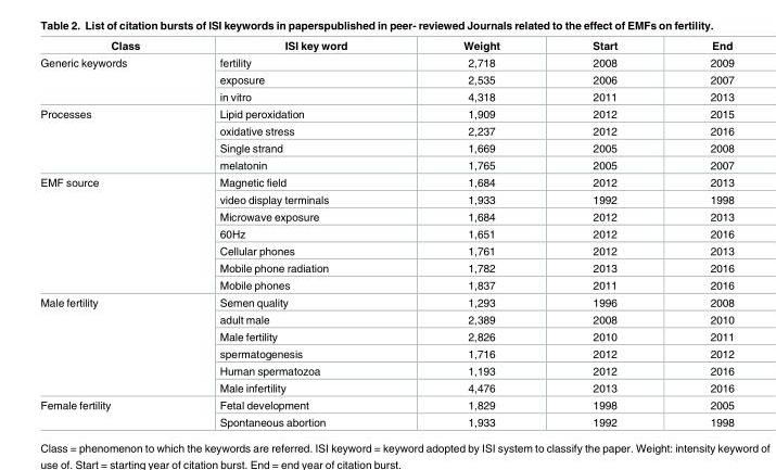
<table><thead><tr><td>Class</td><td>ISI key word</td><td>Weight</td><td>Start</td><td>End</td></tr></thead><tbody><tr><td rowspan="3">Generic keywords</td><td>fertility</td><td>2,718</td><td>2008</td><td>2009</td></tr><tr><td>exposure</td><td>2,535</td><td>2006</td><td>2007</td></tr><tr><td>in vitro</td><td>4,318</td><td>2011</td><td>2013</td></tr><tr><td rowspan="4">Processes</td><td>Lipid peroxidation</td><td>1,909</td><td>2012</td><td>2015</td></tr><tr><td>oxidative stress</td><td>2,237</td><td>2012</td><td>2016</td></tr><tr><td>Single strand</td><td>1,669</td><td>2005</td><td>2008</td></tr><tr><td>melatonin</td><td>1,765</td><td>2005</td><td>2007</td></tr><tr><td rowspan="7">EMF source</td><td>Magnetic field</td><td>1,684</td><td>2012</td><td>2013</td></tr><tr><td>video display terminals</td><td>1,933</td><td>1992</td><td>1998</td></tr><tr><td>Microwave exposure</td><td>1,684</td><td>2012</td><td>2013</td></tr><tr><td>60Hz</td><td>1,651</td><td>2012</td><td>2016</td></tr><tr><td>Cellular phones</td><td>1,761</td><td>2012</td><td>2013</td></tr><tr><td>Mobile phone radiation</td><td>1,782</td><td>2013</td><td>2016</td></tr><tr><td>Mobile phones</td><td>1,837</td><td>2011</td><td>2016</td></tr><tr><td rowspan="6">Male fertility</td><td>Semen quality</td><td>1,293</td><td>1996</td><td>2008</td></tr><tr><td>adult male</td><td>2,389</td><td>2008</td><td>2010</td></tr><tr><td>Male fertility</td><td>2,826</td><td>2010</td><td>2011</td></tr><tr><td>spermatogenesis</td><td>1,716</td><td>2012</td><td>2012</td></tr><tr><td>Human spermatozoa</td><td>1,193</td><td>2012</td><td>2016</td></tr><tr><td>Male infertility</td><td>4,476</td><td>2013</td><td>2016</td></tr><tr><td rowspan="2">Female fertility</td><td>Fetal development</td><td>1,829</td><td>1998</td><td>2005</td></tr><tr><td>Spontaneous abortion</td><td>1,933</td><td>1992</td><td>1998</td></tr></tbody></table>